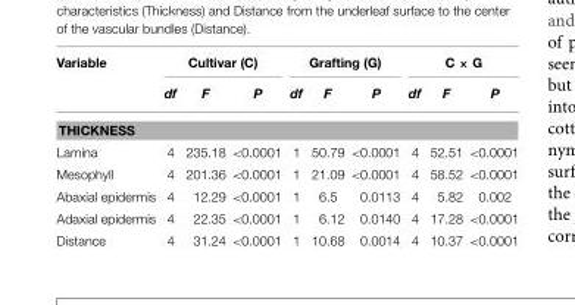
<table><thead><tr><td rowspan="2">Variable</td><td colspan="3">Cultivar (C)</td><td colspan="3">Grafting (G)</td><td colspan="3">C × G</td></tr><tr><td>df</td><td>F</td><td>P</td><td>df</td><td>F</td><td>P</td><td>df</td><td>F</td><td>P</td></tr></thead><tbody><tr><td colspan="10">THICKNESS</td></tr><tr><td>Lamina</td><td>4</td><td>235.18</td><td>&lt;0.0001</td><td>1</td><td>50.79</td><td>&lt;0.0001</td><td>4</td><td>52.51</td><td>&lt;0.0001</td></tr><tr><td>Mesophyll</td><td>4</td><td>201.36</td><td>&lt;0.0001</td><td>1</td><td>21.09</td><td>&lt;0.0001</td><td>4</td><td>58.52</td><td>&lt;0.0001</td></tr><tr><td>Abaxial epidermis</td><td>4</td><td>12.29</td><td>&lt;0.0001</td><td>1</td><td>6.5</td><td>0.0113</td><td>4</td><td>5.82</td><td>0.002</td></tr><tr><td>Adaxial epidermis</td><td>4</td><td>22.35</td><td>&lt;0.0001</td><td>1</td><td>6.12</td><td>0.0140</td><td>4</td><td>17.28</td><td>&lt;0.0001</td></tr><tr><td>Distance</td><td>4</td><td>31.24</td><td>&lt;0.0001</td><td>1</td><td>10.68</td><td>0.0014</td><td>4</td><td>10.37</td><td>&lt;0.0001</td></tr></tbody></table>